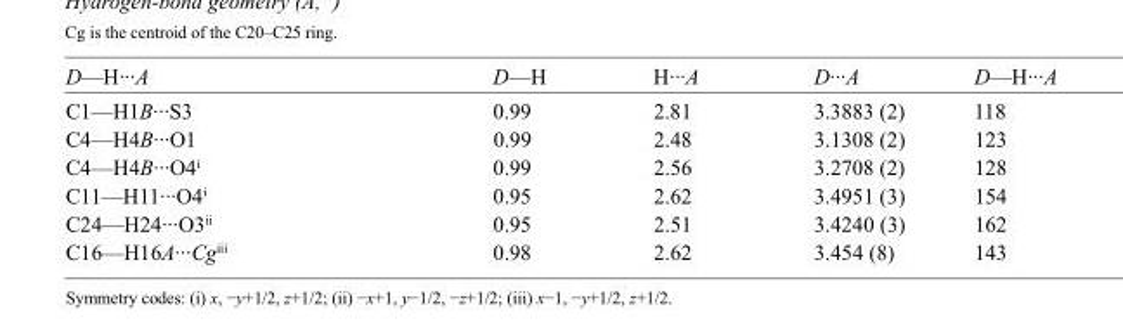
<table><tbody><tr><td>D—H···A</td><td>D—H</td><td>H···A</td><td>D···A</td><td>D—H···A</td></tr><tr><td>C1—H1B···S3</td><td>0.99</td><td>2.81</td><td>3.3883 (2)</td><td>118</td></tr><tr><td>C4—H4B···O1</td><td>0.99</td><td>2.48</td><td>3.1308 (2)</td><td>123</td></tr><tr><td>C4—H4B···O4<sup>i</sup></td><td>0.99</td><td>2.56</td><td>3.2708 (2)</td><td>128</td></tr><tr><td>C11—H11···O4<sup>i</sup></td><td>0.95</td><td>2.62</td><td>3.4951 (3)</td><td>154</td></tr><tr><td>C24—H24···O3<sup>ii</sup></td><td>0.95</td><td>2.51</td><td>3.4240 (3)</td><td>162</td></tr><tr><td>C16—H16A···Cg<sup>iii</sup></td><td>0.98</td><td>2.62</td><td>3.454 (8)</td><td>143</td></tr></tbody></table>